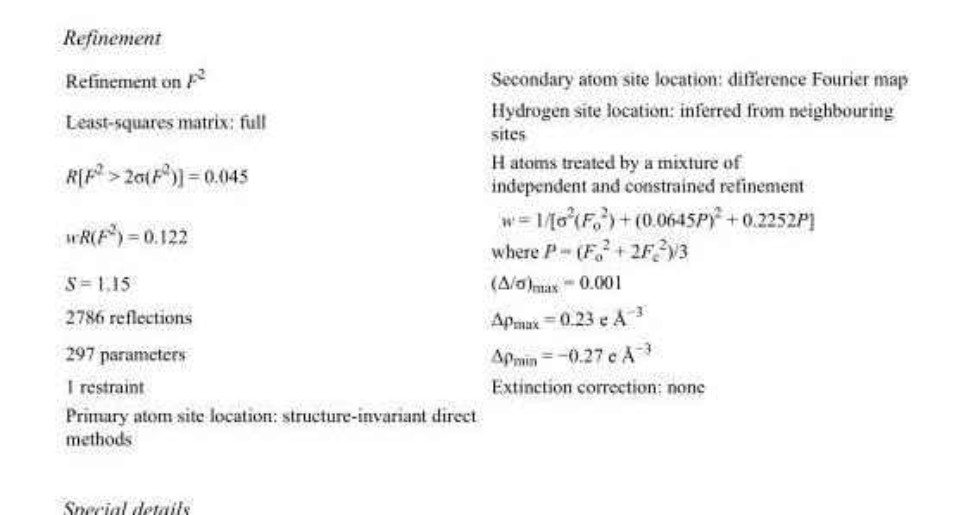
<table><tbody><tr><td>Refinement on F<sup>2</sup></td><td>Secondary atom site location: difference Fourier map</td></tr><tr><td>Least-squares matrix: full</td><td>Hydrogen site location: inferred from neighbouring sites</td></tr><tr><td>R[F<sup>2</sup> &gt; 2σ(F<sup>2</sup>)] = 0.045</td><td>H atoms treated by a mixture of independent and constrained refinement</td></tr><tr><td>wR(F<sup>2</sup>) = 0.122</td><td>w = 1/[σ<sup>2</sup>(F<sub>o</sub> <sup>2</sup>) + (0.0645P)<sup>2</sup> + 0.2252P] where P = (F<sub>o</sub> <sup>2</sup> + 2F<sub>c</sub> <sup>2</sup>)/3</td></tr><tr><td>S = 1.15</td><td>(Δ/σ)<sub>max</sub> = 0.001</td></tr><tr><td>2786 reflections</td><td>Δρ<sub>max</sub> = 0.23 e Å<sup>−3</sup></td></tr><tr><td>297 parameters</td><td>Δρ<sub>min</sub> = −0.27 e Å<sup>−3</sup></td></tr><tr><td>1 restraint</td><td>Extinction correction: none</td></tr><tr><td>Primary atom site location: structure-invariant direct methods</td><td></td></tr></tbody></table>